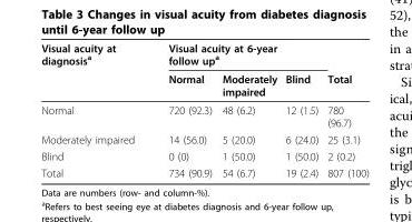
<table><thead><tr><td rowspan="2">Visual acuity at diagnosis<sup>a</sup></td><td colspan="3">Visual acuity at 6-year follow up<sup>a</sup></td><td rowspan="2">Total</td></tr><tr><td>Normal</td><td>Moderately impaired</td><td>Blind</td></tr></thead><tbody><tr><td>Normal</td><td>720 (92.3)</td><td>48 (6.2)</td><td>12 (1.5)</td><td>780 (96.7)</td></tr><tr><td>Moderately impaired</td><td>14 (56.0)</td><td>5 (20.0)</td><td>6 (24.0)</td><td>25 (3.1)</td></tr><tr><td>Blind</td><td>0 (0)</td><td>1 (50.0)</td><td>1 (50.0)</td><td>2 (0.2)</td></tr><tr><td>Total</td><td>734 (90.9)</td><td>54 (6.7)</td><td>19 (2.4)</td><td>807 (100)</td></tr></tbody></table>